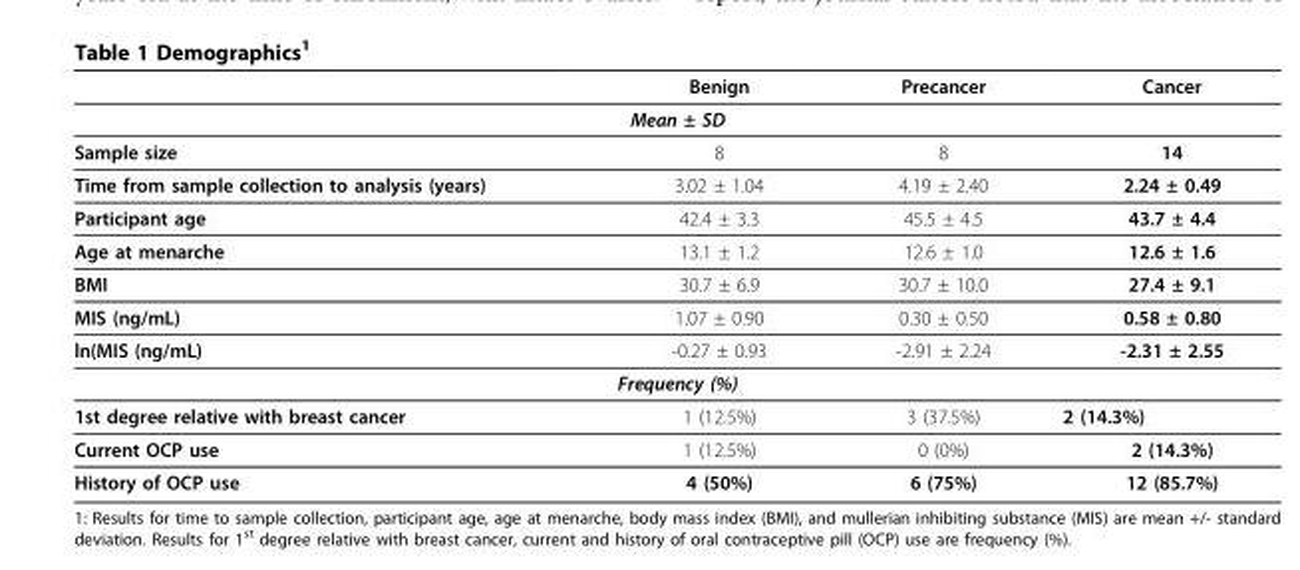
<table><thead><tr><td></td><td>Benign</td><td>Precancer</td><td>Cancer</td></tr></thead><tbody><tr><td colspan="4">Mean ± SD</td></tr><tr><td>Sample size</td><td>8</td><td>8</td><td>14</td></tr><tr><td>Time from sample collection to analysis (years)</td><td>3.02 ± 1.04</td><td>4.19 ± 2.40</td><td>2.24 ± 0.49</td></tr><tr><td>Participant age</td><td>42.4 ± 3.3</td><td>45.5 ± 4.5</td><td>43.7 ± 4.4</td></tr><tr><td>Age at menarche</td><td>13.1 ± 1.2</td><td>12.6 ± 1.0</td><td>12.6 ± 1.6</td></tr><tr><td>BMI</td><td>30.7 ± 6.9</td><td>30.7 ± 10.0</td><td>27.4 ± 9.1</td></tr><tr><td>MIS (ng/mL)</td><td>1.07 ± 0.90</td><td>0.30 ± 0.50</td><td>0.58 ± 0.80</td></tr><tr><td>ln(MIS (ng/mL)</td><td>-0.27 ± 0.93</td><td>-2.91 ± 2.24</td><td>-2.31 ± 2.55</td></tr><tr><td colspan="4">Frequency (%)</td></tr><tr><td>1st degree relative with breast cancer</td><td>1 (12.5%)</td><td>3 (37.5%)</td><td>2 (14.3%)</td></tr><tr><td>Current OCP use</td><td>1 (12.5%)</td><td>0 (0%)</td><td>2 (14.3%)</td></tr><tr><td>History of OCP use</td><td>4 (50%)</td><td>6 (75%)</td><td>12 (85.7%)</td></tr></tbody></table>